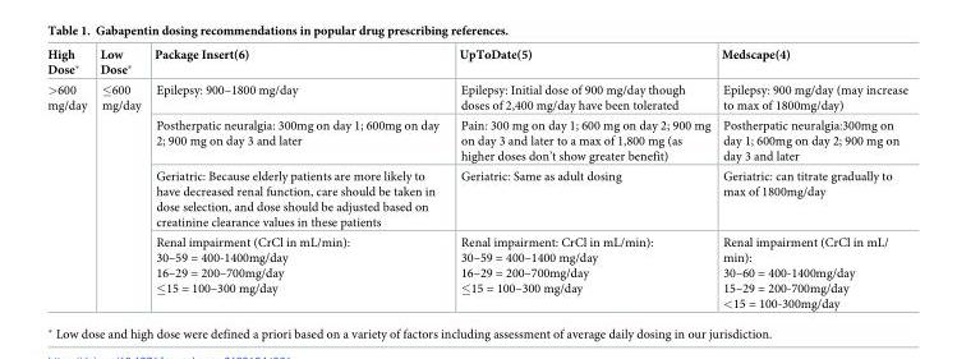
<table><thead><tr><td>High Dose*</td><td>Low Dose*</td><td>Package Insert(6)</td><td>UpToDate(5)</td><td>Medscape(4)</td></tr></thead><tbody><tr><td rowspan="4">&gt;600 mg/day</td><td rowspan="4">≤600 mg/day</td><td>Epilepsy: 900–1800 mg/day</td><td>Epilepsy: Initial dose of 900 mg/day though doses of 2,400 mg/day have been tolerated</td><td>Epilepsy: 900 mg/day (may increase to max of 1800mg/day)</td></tr><tr><td>Postherpatic neuralgia: 300mg on day 1; 600mg on day 2; 900 mg on day 3 and later</td><td>Pain: 300 mg on day 1; 600 mg on day 2; 900 mg on day 3 and later to a max of 1,800 mg (as higher doses don’t show greater benefit)</td><td>Postherpatic neuralgia:300mg on day 1; 600mg on day 2; 900 mg on day 3 and later</td></tr><tr><td>Geriatric: Because elderly patients are more likely to have decreased renal function, care should be taken in dose selection, and dose should be adjusted based on creatinine clearance values in these patients</td><td>Geriatric: Same as adult dosing</td><td>Geriatric: can titrate gradually to max of 1800mg/day</td></tr><tr><td>Renal impairment (CrCl in mL/min): 30–59 = 400-1400mg/day 16–29 = 200–700mg/day ≤15 = 100–300 mg/day</td><td>Renal impairment: CrCl in mL/min): 30–59 = 400–1400 mg/day 16–29 = 200–700mg/day ≤15 = 100–300 mg/day</td><td>Renal impairment (CrCl in mL/ min): 30–60 = 400-1400mg/day 15–29 = 200-700mg/day &lt;15 = 100-300mg/day</td></tr></tbody></table>